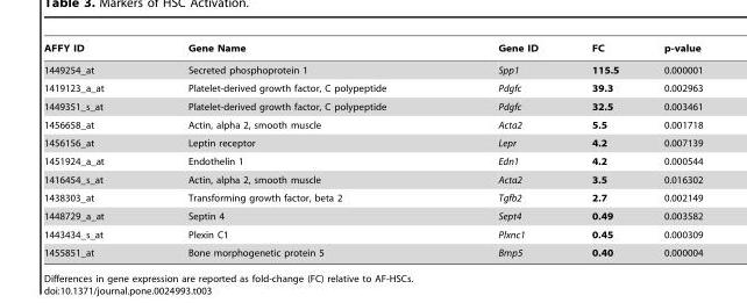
<table><thead><tr><td>AFFY ID</td><td>Gene Name</td><td>Gene ID</td><td>FC</td><td>p-value</td></tr></thead><tbody><tr><td>1449254_at</td><td>Secreted phosphoprotein 1</td><td>Spp1</td><td>115.5</td><td>0.000001</td></tr><tr><td>1419123_a_at</td><td>Platelet-derived growth factor, C polypeptide</td><td>Pdgfc</td><td>39.3</td><td>0.002963</td></tr><tr><td>1449351_s_at</td><td>Platelet-derived growth factor, C polypeptide</td><td>Pdgfc</td><td>32.5</td><td>0.003461</td></tr><tr><td>1456658_at</td><td>Actin, alpha 2, smooth muscle</td><td>Acta2</td><td>5.5</td><td>0.001718</td></tr><tr><td>1456156_at</td><td>Leptin receptor</td><td>Lepr</td><td>4.2</td><td>0.007139</td></tr><tr><td>1451924_a_at</td><td>Endothelin 1</td><td>Edn1</td><td>4.2</td><td>0.000544</td></tr><tr><td>1416454_s_at</td><td>Actin, alpha 2, smooth muscle</td><td>Acta2</td><td>3.5</td><td>0.016302</td></tr><tr><td>1438303_at</td><td>Transforming growth factor, beta 2</td><td>Tgfb2</td><td>2.7</td><td>0.002149</td></tr><tr><td>1448729_a_at</td><td>Septin 4</td><td>Sept4</td><td>0.49</td><td>0.003582</td></tr><tr><td>1443434_s_at</td><td>Plexin C1</td><td>Plxnc1</td><td>0.45</td><td>0.000309</td></tr><tr><td>1455851_at</td><td>Bone morphogenetic protein 5</td><td>Bmp5</td><td>0.40</td><td>0.000004</td></tr></tbody></table>